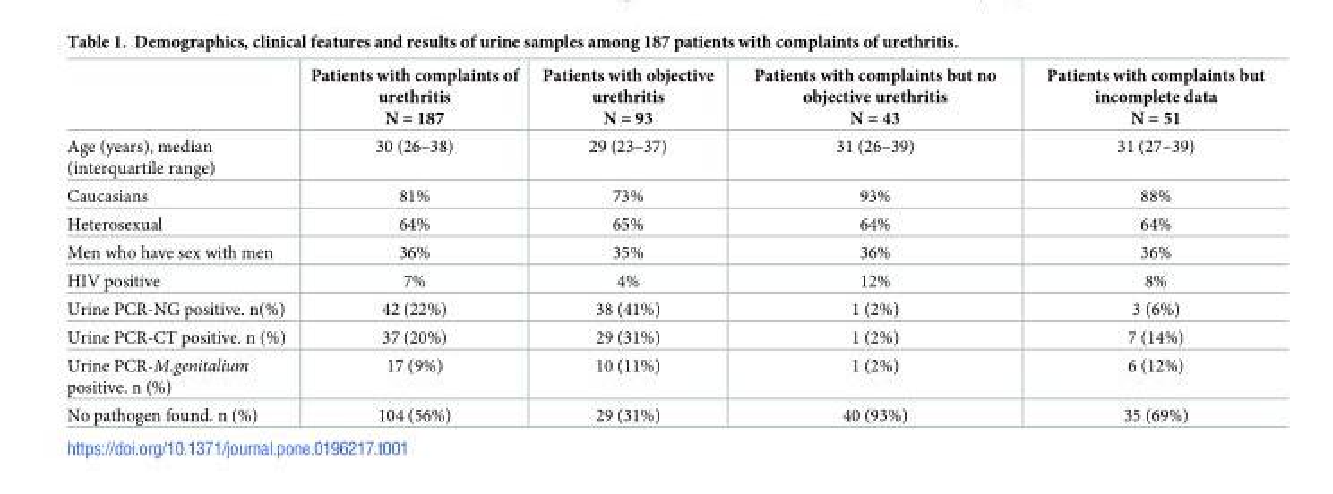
<table><thead><tr><td></td><td>Patients with complaints of urethritis N = 187</td><td>Patients with objective urethritis N = 93</td><td>Patients with complaints but no objective urethritis N = 43</td><td>Patients with complaints but incomplete data N = 51</td></tr></thead><tbody><tr><td>Age (years), median (interquartile range)</td><td>30 (26–38)</td><td>29 (23–37)</td><td>31 (26–39)</td><td>31 (27–39)</td></tr><tr><td>Caucasians</td><td>81%</td><td>73%</td><td>93%</td><td>88%</td></tr><tr><td>Heterosexual</td><td>64%</td><td>65%</td><td>64%</td><td>64%</td></tr><tr><td>Men who have sex with men</td><td>36%</td><td>35%</td><td>36%</td><td>36%</td></tr><tr><td>HIV positive</td><td>7%</td><td>4%</td><td>12%</td><td>8%</td></tr><tr><td>Urine PCR-NG positive. n(%)</td><td>42 (22%)</td><td>38 (41%)</td><td>1 (2%)</td><td>3 (6%)</td></tr><tr><td>Urine PCR-CT positive. n (%)</td><td>37 (20%)</td><td>29 (31%)</td><td>1 (2%)</td><td>7 (14%)</td></tr><tr><td>Urine PCR-M.genitalium positive. n (%)</td><td>17 (9%)</td><td>10 (11%)</td><td>1 (2%)</td><td>6 (12%)</td></tr><tr><td>No pathogen found. n (%)</td><td>104 (56%)</td><td>29 (31%)</td><td>40 (93%)</td><td>35 (69%)</td></tr></tbody></table>